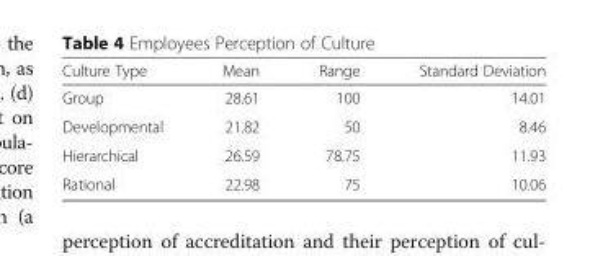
<table><thead><tr><td>Culture Type</td><td>Mean</td><td>Range</td><td>Standard Deviation</td></tr></thead><tbody><tr><td>Group</td><td>28.61</td><td>100</td><td>14.01</td></tr><tr><td>Developmental</td><td>21.82</td><td>50</td><td>8.46</td></tr><tr><td>Hierarchical</td><td>26.59</td><td>78.75</td><td>11.93</td></tr><tr><td>Rational</td><td>22.98</td><td>75</td><td>10.06</td></tr></tbody></table>